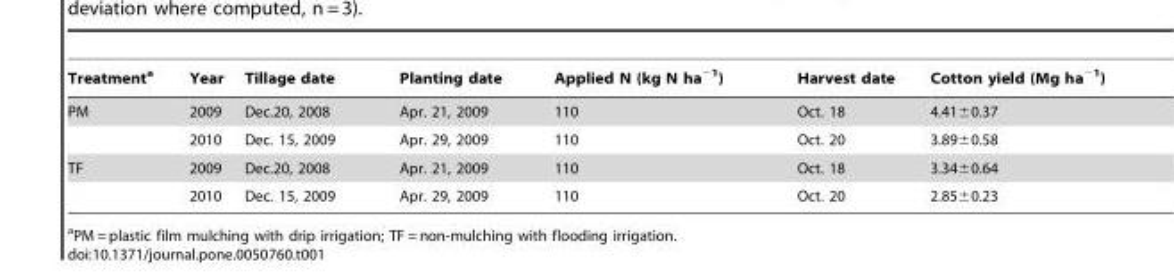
<table><thead><tr><td>Treatment<sup>a</sup></td><td>Year</td><td>Tillage date</td><td>Planting date</td><td>Applied N (kg N ha<sup>−1</sup>)</td><td>Harvest date</td><td>Cotton yield (Mg ha<sup>−1</sup>)</td></tr></thead><tbody><tr><td rowspan="2">PM</td><td>2009</td><td>Dec.20, 2008</td><td>Apr. 21, 2009</td><td>110</td><td>Oct. 18</td><td>4.41±0.37</td></tr><tr><td>2010</td><td>Dec. 15, 2009</td><td>Apr. 29, 2009</td><td>110</td><td>Oct. 20</td><td>3.89±0.58</td></tr><tr><td rowspan="2">TF</td><td>2009</td><td>Dec.20, 2008</td><td>Apr. 21, 2009</td><td>110</td><td>Oct. 18</td><td>3.34±0.64</td></tr><tr><td>2010</td><td>Dec. 15, 2009</td><td>Apr. 29, 2009</td><td>110</td><td>Oct. 20</td><td>2.85±0.23</td></tr></tbody></table>